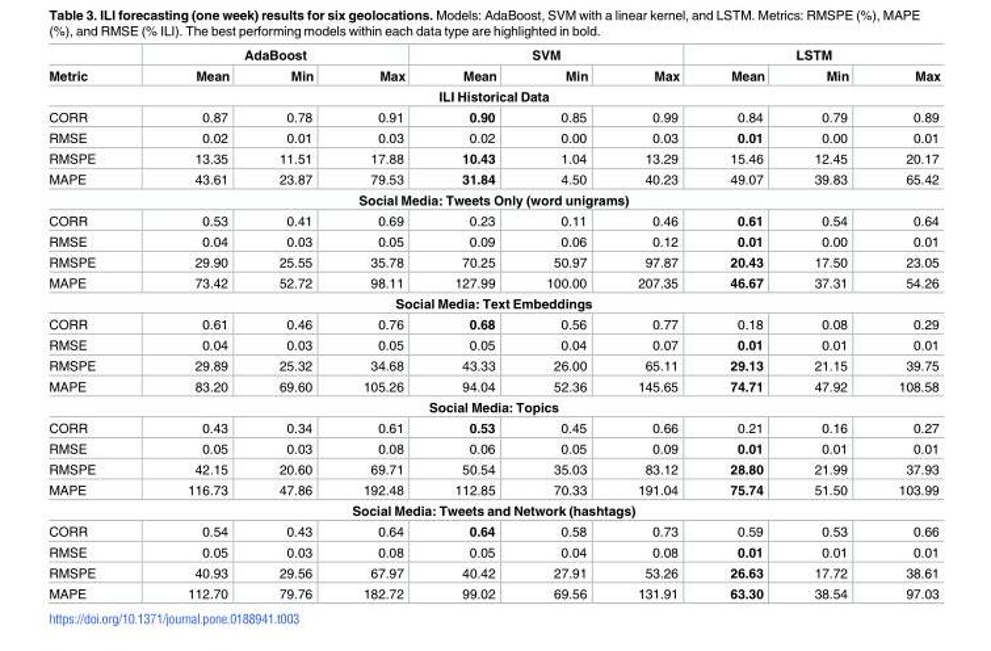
<table><thead><tr><td rowspan="2">Metric</td><td colspan="3">AdaBoost</td><td colspan="3">SVM</td><td colspan="3">LSTM</td></tr><tr><td>Mean</td><td>Min</td><td>Max</td><td>Mean</td><td>Min</td><td>Max</td><td>Mean</td><td>Min</td><td>Max</td></tr></thead><tbody><tr><td colspan="10">ILI Historical Data</td></tr><tr><td>CORR</td><td>0.87</td><td>0.78</td><td>0.91</td><td>0.90</td><td>0.85</td><td>0.99</td><td>0.84</td><td>0.79</td><td>0.89</td></tr><tr><td>RMSE</td><td>0.02</td><td>0.01</td><td>0.03</td><td>0.02</td><td>0.00</td><td>0.03</td><td>0.01</td><td>0.00</td><td>0.01</td></tr><tr><td>RMSPE</td><td>13.35</td><td>11.51</td><td>17.88</td><td>10.43</td><td>1.04</td><td>13.29</td><td>15.46</td><td>12.45</td><td>20.17</td></tr><tr><td>MAPE</td><td>43.61</td><td>23.87</td><td>79.53</td><td>31.84</td><td>4.50</td><td>40.23</td><td>49.07</td><td>39.83</td><td>65.42</td></tr><tr><td colspan="10">Social Media: Tweets Only (word unigrams)</td></tr><tr><td>CORR</td><td>0.53</td><td>0.41</td><td>0.69</td><td>0.23</td><td>0.11</td><td>0.46</td><td>0.61</td><td>0.54</td><td>0.64</td></tr><tr><td>RMSE</td><td>0.04</td><td>0.03</td><td>0.05</td><td>0.09</td><td>0.06</td><td>0.12</td><td>0.01</td><td>0.00</td><td>0.01</td></tr><tr><td>RMSPE</td><td>29.90</td><td>25.55</td><td>35.78</td><td>70.25</td><td>50.97</td><td>97.87</td><td>20.43</td><td>17.50</td><td>23.05</td></tr><tr><td>MAPE</td><td>73.42</td><td>52.72</td><td>98.11</td><td>127.99</td><td>100.00</td><td>207.35</td><td>46.67</td><td>37.31</td><td>54.26</td></tr><tr><td colspan="10">Social Media: Text Embeddings</td></tr><tr><td>CORR</td><td>0.61</td><td>0.46</td><td>0.76</td><td>0.68</td><td>0.56</td><td>0.77</td><td>0.18</td><td>0.08</td><td>0.29</td></tr><tr><td>RMSE</td><td>0.04</td><td>0.03</td><td>0.05</td><td>0.05</td><td>0.04</td><td>0.07</td><td>0.01</td><td>0.01</td><td>0.01</td></tr><tr><td>RMSPE</td><td>29.89</td><td>25.32</td><td>34.68</td><td>43.33</td><td>26.00</td><td>65.11</td><td>29.13</td><td>21.15</td><td>39.75</td></tr><tr><td>MAPE</td><td>83.20</td><td>69.60</td><td>105.26</td><td>94.04</td><td>52.36</td><td>145.65</td><td>74.71</td><td>47.92</td><td>108.58</td></tr><tr><td colspan="10">Social Media: Topics</td></tr><tr><td>CORR</td><td>0.43</td><td>0.34</td><td>0.61</td><td>0.53</td><td>0.45</td><td>0.66</td><td>0.21</td><td>0.16</td><td>0.27</td></tr><tr><td>RMSE</td><td>0.05</td><td>0.03</td><td>0.08</td><td>0.06</td><td>0.05</td><td>0.09</td><td>0.01</td><td>0.01</td><td>0.01</td></tr><tr><td>RMSPE</td><td>42.15</td><td>20.60</td><td>69.71</td><td>50.54</td><td>35.03</td><td>83.12</td><td>28.80</td><td>21.99</td><td>37.93</td></tr><tr><td>MAPE</td><td>116.73</td><td>47.86</td><td>192.48</td><td>112.85</td><td>70.33</td><td>191.04</td><td>75.74</td><td>51.50</td><td>103.99</td></tr><tr><td colspan="10">Social Media: Tweets and Network (hashtags)</td></tr><tr><td>CORR</td><td>0.54</td><td>0.43</td><td>0.64</td><td>0.64</td><td>0.58</td><td>0.73</td><td>0.59</td><td>0.53</td><td>0.66</td></tr><tr><td>RMSE</td><td>0.05</td><td>0.03</td><td>0.08</td><td>0.05</td><td>0.04</td><td>0.08</td><td>0.01</td><td>0.01</td><td>0.01</td></tr><tr><td>RMSPE</td><td>40.93</td><td>29.56</td><td>67.97</td><td>40.42</td><td>27.91</td><td>53.26</td><td>26.63</td><td>17.72</td><td>38.61</td></tr><tr><td>MAPE</td><td>112.70</td><td>79.76</td><td>182.72</td><td>99.02</td><td>69.56</td><td>131.91</td><td>63.30</td><td>38.54</td><td>97.03</td></tr></tbody></table>